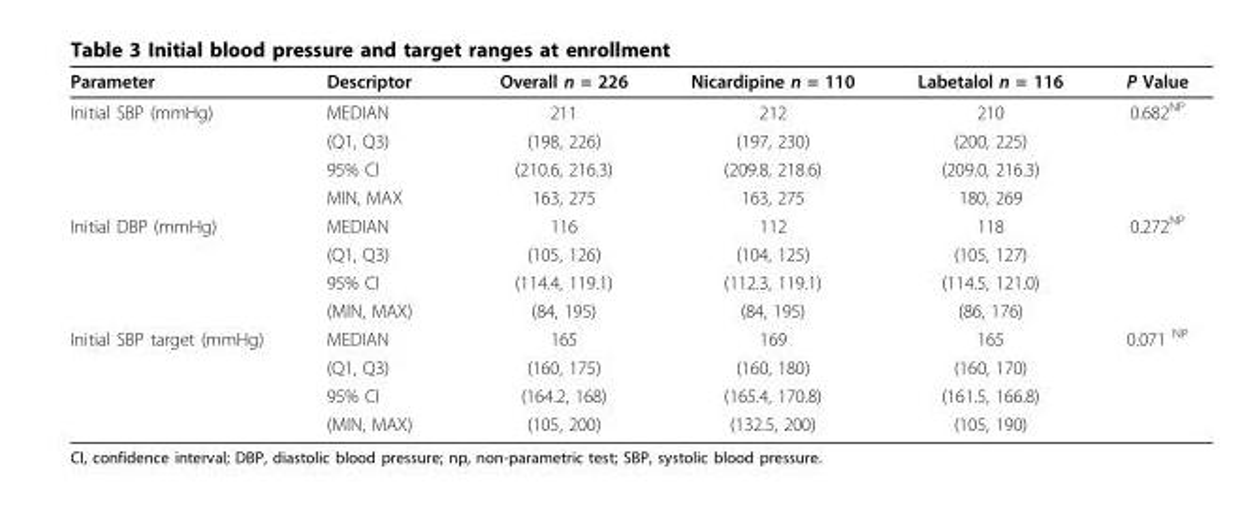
<table><thead><tr><td>Parameter</td><td>Descriptor</td><td>Overall n = 226</td><td>Nicardipine n = 110</td><td>Labetalol n = 116</td><td>P Value</td></tr></thead><tbody><tr><td rowspan="4">Initial SBP (mmHg)</td><td>MEDIAN</td><td>211</td><td>212</td><td>210</td><td>0.682<sup>NP</sup></td></tr><tr><td>(Q1, Q3)</td><td>(198, 226)</td><td>(197, 230)</td><td>(200, 225)</td><td></td></tr><tr><td>95% CI</td><td>(210.6, 216.3)</td><td>(209.8, 218.6)</td><td>(209.0, 216.3)</td><td></td></tr><tr><td>MIN, MAX</td><td>163, 275</td><td>163, 275</td><td>180, 269</td><td></td></tr><tr><td rowspan="4">Initial DBP (mmHg)</td><td>MEDIAN</td><td>116</td><td>112</td><td>118</td><td>0.272<sup>NP</sup></td></tr><tr><td>(Q1, Q3)</td><td>(105, 126)</td><td>(104, 125)</td><td>(105, 127)</td><td></td></tr><tr><td>95% CI</td><td>(114.4, 119.1)</td><td>(112.3, 119.1)</td><td>(114.5, 121.0)</td><td></td></tr><tr><td>(MIN, MAX)</td><td>(84, 195)</td><td>(84, 195)</td><td>(86, 176)</td><td></td></tr><tr><td rowspan="4">Initial SBP target (mmHg)</td><td>MEDIAN</td><td>165</td><td>169</td><td>165</td><td>0.071 <sup>NP</sup></td></tr><tr><td>(Q1, Q3)</td><td>(160, 175)</td><td>(160, 180)</td><td>(160, 170)</td><td></td></tr><tr><td>95% CI</td><td>(164.2, 168)</td><td>(165.4, 170.8)</td><td>(161.5, 166.8)</td><td></td></tr><tr><td>(MIN, MAX)</td><td>(105, 200)</td><td>(132.5, 200)</td><td>(105, 190)</td><td></td></tr></tbody></table>